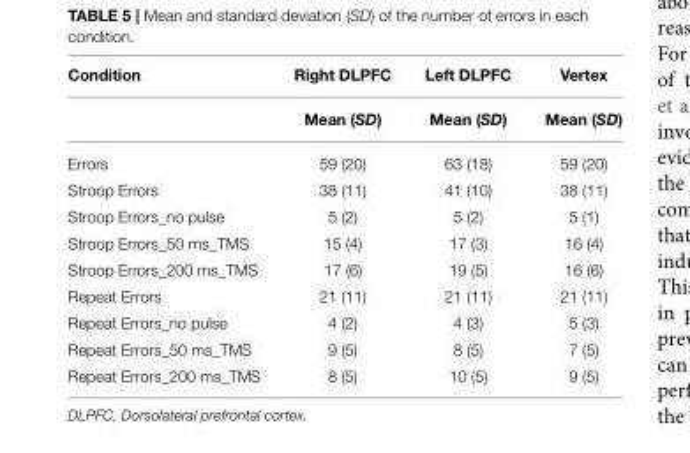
<table><thead><tr><td>Condition</td><td>Right DLPFC</td><td>Left DLPFC</td><td>Vertex</td></tr></thead><tbody><tr><td></td><td>Mean (SD)</td><td>Mean (SD)</td><td>Mean (SD)</td></tr><tr><td>Errors</td><td>59 (20)</td><td>63 (18)</td><td>59 (20)</td></tr><tr><td>Stroop Errors</td><td>38 (11)</td><td>41 (10)</td><td>38 (11)</td></tr><tr><td>Stroop Errors_no pulse</td><td>5 (2)</td><td>5 (2)</td><td>5 (1)</td></tr><tr><td>Stroop Errors_50 ms_TMS</td><td>15 (4)</td><td>17 (3)</td><td>16 (4)</td></tr><tr><td>Stroop Errors_200 ms_TMS</td><td>17 (6)</td><td>19 (5)</td><td>16 (6)</td></tr><tr><td>Repeat Errors</td><td>21 (11)</td><td>21 (11)</td><td>21 (11)</td></tr><tr><td>Repeat Errors_no pulse</td><td>4 (2)</td><td>4 (3)</td><td>5 (3)</td></tr><tr><td>Repeat Errors_50 ms_TMS</td><td>9 (5)</td><td>8 (5)</td><td>7 (5)</td></tr><tr><td>Repeat Errors_200 ms_TMS</td><td>8 (5)</td><td>10 (5)</td><td>9 (5)</td></tr></tbody></table>